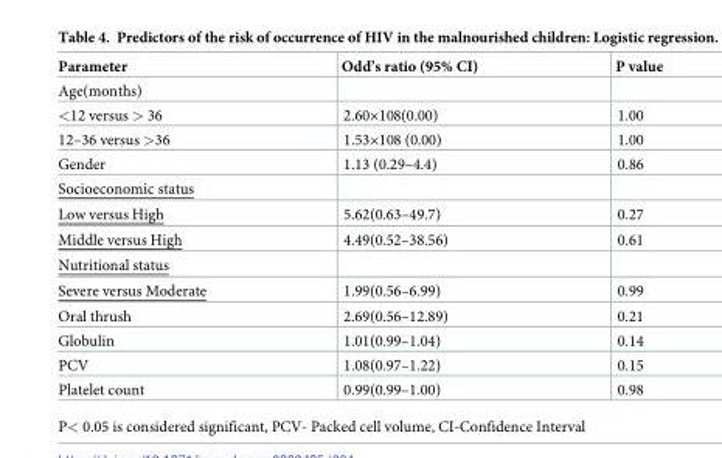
<table><thead><tr><td>Parameter</td><td>Odd’s ratio (95% CI)</td><td>P value</td></tr></thead><tbody><tr><td colspan="3">Age(months)</td></tr><tr><td>&lt;12 versus &gt; 36</td><td>2.60×108(0.00)</td><td>1.00</td></tr><tr><td>12–36 versus &gt;36</td><td>1.53×108 (0.00)</td><td>1.00</td></tr><tr><td>Gender</td><td>1.13 (0.29–4.4)</td><td>0.86</td></tr><tr><td colspan="3">Socioeconomic status</td></tr><tr><td>Low versus High</td><td>5.62(0.63–49.7)</td><td>0.27</td></tr><tr><td>Middle versus High</td><td>4.49(0.52–38.56)</td><td>0.61</td></tr><tr><td colspan="3">Nutritional status</td></tr><tr><td>Severe versus Moderate</td><td>1.99(0.56–6.99)</td><td>0.99</td></tr><tr><td>Oral thrush</td><td>2.69(0.56–12.89)</td><td>0.21</td></tr><tr><td>Globulin</td><td>1.01(0.99–1.04)</td><td>0.14</td></tr><tr><td>PCV</td><td>1.08(0.97–1.22)</td><td>0.15</td></tr><tr><td>Platelet count</td><td>0.99(0.99–1.00)</td><td>0.98</td></tr></tbody></table>